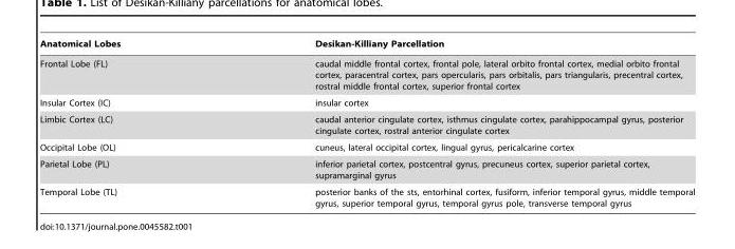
<table><thead><tr><td>Anatomical Lobes</td><td>Desikan-Killiany Parcellation</td></tr></thead><tbody><tr><td>Frontal Lobe (FL)</td><td>caudal middle frontal cortex, frontal pole, lateral orbito frontal cortex, medial orbito frontal cortex, paracentral cortex, pars opercularis, pars orbitalis, pars triangularis, precentral cortex, rostral middle frontal cortex, superior frontal cortex</td></tr><tr><td>Insular Cortex (IC)</td><td>insular cortex</td></tr><tr><td>Limbic Cortex (LC)</td><td>caudal anterior cingulate cortex, isthmus cingulate cortex, parahippocampal gyrus, posterior cingulate cortex, rostral anterior cingulate cortex</td></tr><tr><td>Occipital Lobe (OL)</td><td>cuneus, lateral occipital cortex, lingual gyrus, pericalcarine cortex</td></tr><tr><td>Parietal Lobe (PL)</td><td>inferior parietal cortex, postcentral gyrus, precuneus cortex, superior parietal cortex, supramarginal gyrus</td></tr><tr><td>Temporal Lobe (TL)</td><td>posterior banks of the sts, entorhinal cortex, fusiform, inferior temporal gyrus, middle temporal gyrus, superior temporal gyrus, temporal gyrus pole, transverse temporal gyrus</td></tr></tbody></table>